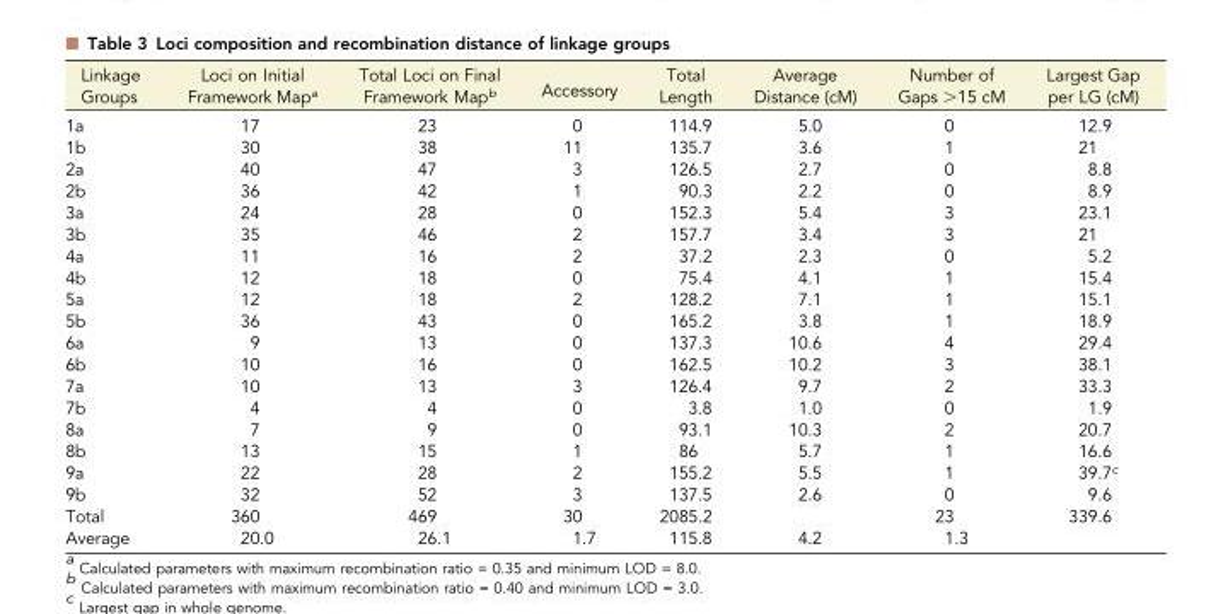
<table><thead><tr><td>Linkage Groups</td><td>Loci on Initial Framework Map<sup>a</sup></td><td>Total Loci on Final Framework Map<sup>b</sup></td><td>Accessory</td><td>Total Length</td><td>Average Distance (cM)</td><td>Number of Gaps &gt;15 cM</td><td>Largest Gap per LG (cM)</td></tr></thead><tbody><tr><td>1a</td><td>17</td><td>23</td><td>0</td><td>114.9</td><td>5.0</td><td>0</td><td>12.9</td></tr><tr><td>1b</td><td>30</td><td>38</td><td>11</td><td>135.7</td><td>3.6</td><td>1</td><td>21</td></tr><tr><td>2a</td><td>40</td><td>47</td><td>3</td><td>126.5</td><td>2.7</td><td>0</td><td>8.8</td></tr><tr><td>2b</td><td>36</td><td>42</td><td>1</td><td>90.3</td><td>2.2</td><td>0</td><td>8.9</td></tr><tr><td>3a</td><td>24</td><td>28</td><td>0</td><td>152.3</td><td>5.4</td><td>3</td><td>23.1</td></tr><tr><td>3b</td><td>35</td><td>46</td><td>2</td><td>157.7</td><td>3.4</td><td>3</td><td>21</td></tr><tr><td>4a</td><td>11</td><td>16</td><td>2</td><td>37.2</td><td>2.3</td><td>0</td><td>5.2</td></tr><tr><td>4b</td><td>12</td><td>18</td><td>0</td><td>75.4</td><td>4.1</td><td>1</td><td>15.4</td></tr><tr><td>5a</td><td>12</td><td>18</td><td>2</td><td>128.2</td><td>7.1</td><td>1</td><td>15.1</td></tr><tr><td>5b</td><td>36</td><td>43</td><td>0</td><td>165.2</td><td>3.8</td><td>1</td><td>18.9</td></tr><tr><td>6a</td><td>9</td><td>13</td><td>0</td><td>137.3</td><td>10.6</td><td>4</td><td>29.4</td></tr><tr><td>6b</td><td>10</td><td>16</td><td>0</td><td>162.5</td><td>10.2</td><td>3</td><td>38.1</td></tr><tr><td>7a</td><td>10</td><td>13</td><td>3</td><td>126.4</td><td>9.7</td><td>2</td><td>33.3</td></tr><tr><td>7b</td><td>4</td><td>4</td><td>0</td><td>3.8</td><td>1.0</td><td>0</td><td>1.9</td></tr><tr><td>8a</td><td>7</td><td>9</td><td>0</td><td>93.1</td><td>10.3</td><td>2</td><td>20.7</td></tr><tr><td>8b</td><td>13</td><td>15</td><td>1</td><td>86</td><td>5.7</td><td>1</td><td>16.6</td></tr><tr><td>9a</td><td>22</td><td>28</td><td>2</td><td>155.2</td><td>5.5</td><td>1</td><td>39.7<sup>c</sup></td></tr><tr><td>9b</td><td>32</td><td>52</td><td>3</td><td>137.5</td><td>2.6</td><td>0</td><td>9.6</td></tr><tr><td>Total</td><td>360</td><td>469</td><td>30</td><td>2085.2</td><td></td><td>23</td><td>339.6</td></tr><tr><td>Average</td><td>20.0</td><td>26.1</td><td>1.7</td><td>115.8</td><td>4.2</td><td>1.3</td><td></td></tr></tbody></table>